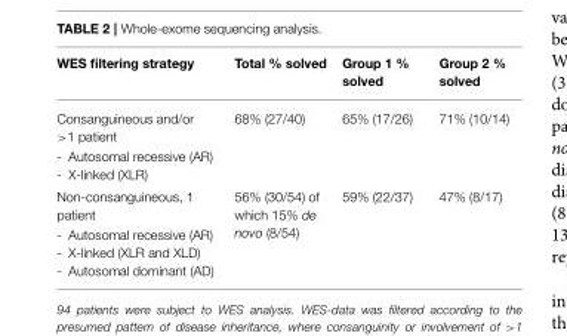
<table><thead><tr><td>WES filtering strategy</td><td>Total % solved</td><td>Group 1 % solved</td><td>Group 2 % solved</td></tr></thead><tbody><tr><td>Consanguineous and/or &gt;1 patient - Autosomal recessive (AR) - X-linked (XLR)</td><td>68% (27/40)</td><td>65% (17/26)</td><td>71% (10/14)</td></tr><tr><td>Non-consanguineous, 1 patient - Autosomal recessive (AR) - X-linked (XLR and XLD) - Autosomal dominant (AD)</td><td>56% (30/54) of which 15% de novo (8/54)</td><td>59% (22/37)</td><td>47% (8/17)</td></tr></tbody></table>